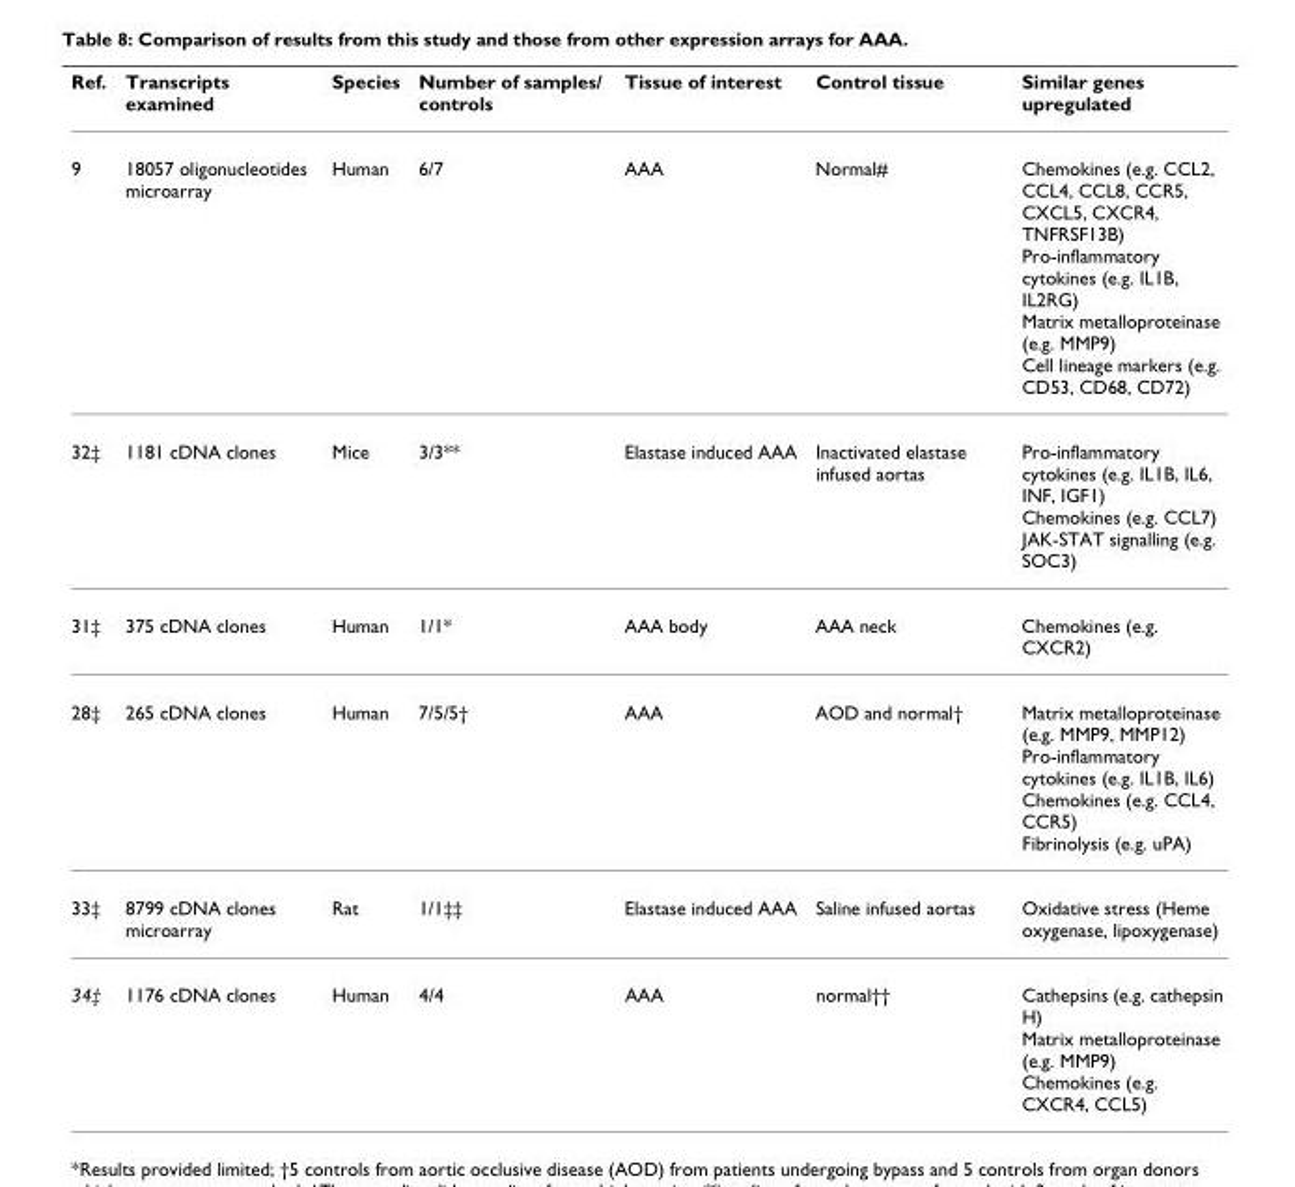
<table><thead><tr><td>Ref.</td><td>Transcripts examined</td><td>Species</td><td>Number of samples/ controls</td><td>Tissue of interest</td><td>Control tissue</td><td>Similar genes upregulated</td></tr></thead><tbody><tr><td>9</td><td>18057 oligonucleotides microarray</td><td>Human</td><td>6/7</td><td>AAA</td><td>Normal#</td><td>Chemokines (e.g. CCL2, CCL4, CCL8, CCR5, CXCL5, CXCR4, TNFRSF13B) Pro-inflammatory cytokines (e.g. IL1B, IL2RG) Matrix metalloproteinase (e.g. MMP9) Cell lineage markers (e.g. CD53, CD68, CD72)</td></tr><tr><td>32‡</td><td>1181 cDNA clones</td><td>Mice</td><td>3/3**</td><td>Elastase induced AAA</td><td>Inactivated elastase infused aortas</td><td>Pro-inflammatory cytokines (e.g. IL1B, IL6, INF, IGF1) Chemokines (e.g. CCL7) JAK-STAT signalling (e.g. SOC3)</td></tr><tr><td>31‡</td><td>375 cDNA clones</td><td>Human</td><td>1/1*</td><td>AAA body</td><td>AAA neck</td><td>Chemokines (e.g. CXCR2)</td></tr><tr><td>28‡</td><td>265 cDNA clones</td><td>Human</td><td>7/5/5†</td><td>AAA</td><td>AOD and normal†</td><td>Matrix metalloproteinase (e.g. MMP9, MMP12) Pro-inflammatory cytokines (e.g. IL1B, IL6) Chemokines (e.g. CCL4, CCR5) Fibrinolysis (e.g. uPA)</td></tr><tr><td>33‡</td><td>8799 cDNA clones microarray</td><td>Rat</td><td>1/1‡‡</td><td>Elastase induced AAA</td><td>Saline infused aortas</td><td>Oxidative stress (Heme oxygenase, lipoxygenase)</td></tr><tr><td>34‡</td><td>1176 cDNA clones</td><td>Human</td><td>4/4</td><td>AAA</td><td>normal††</td><td>Cathepsins (e.g. cathepsin H) Matrix metalloproteinase (e.g. MMP9) Chemokines (e.g. CXCR4, CCL5)</td></tr></tbody></table>